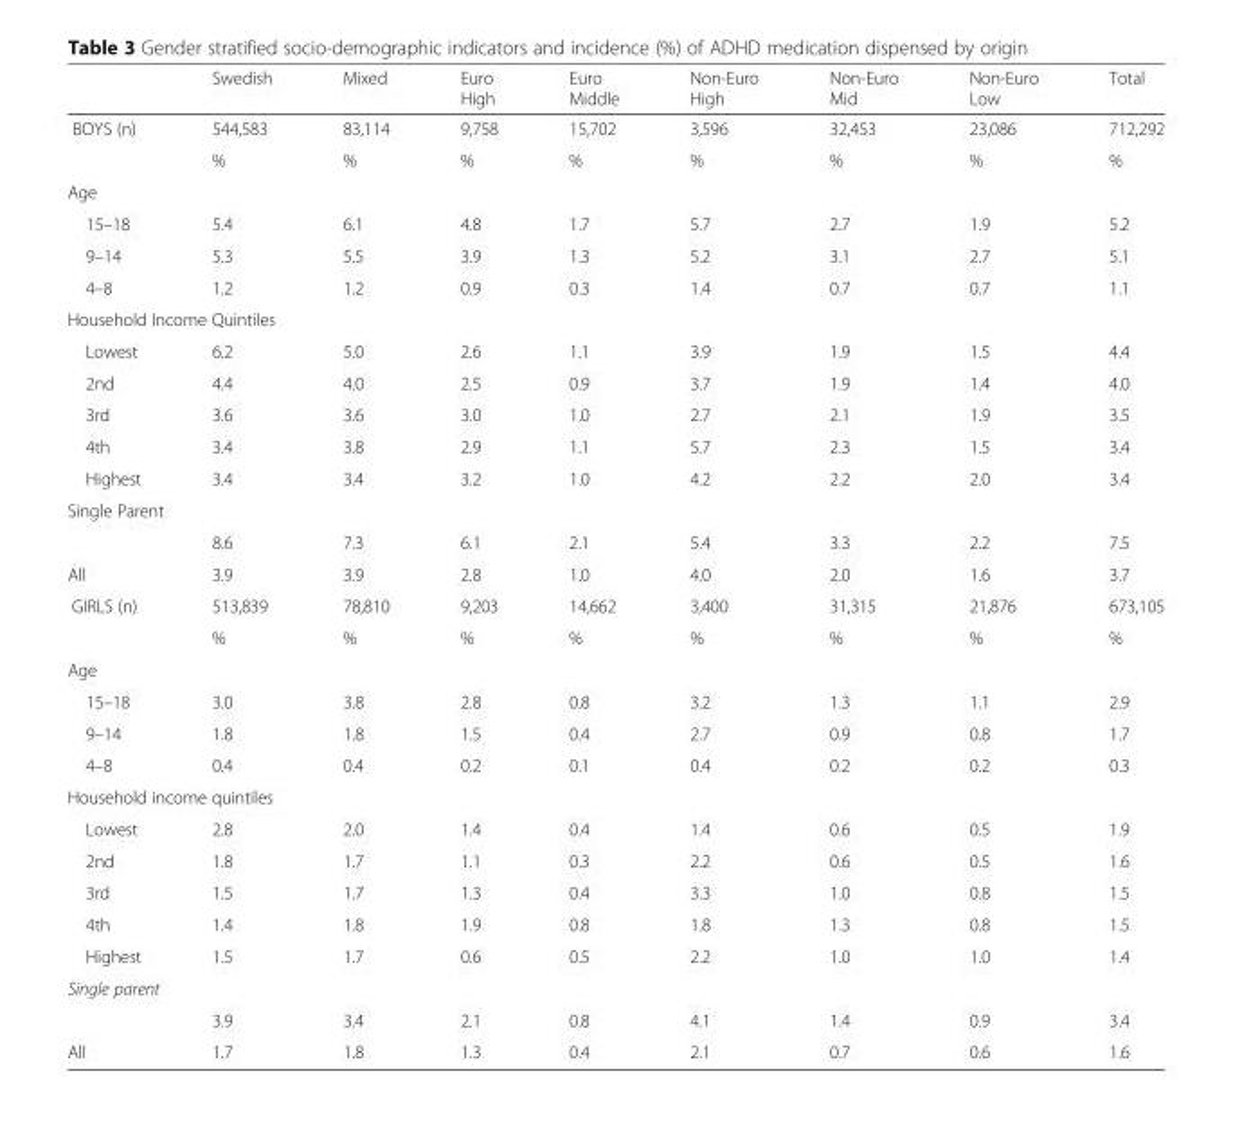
<table><thead><tr><td></td><td>Swedish</td><td>Mixed</td><td>Euro High</td><td>Euro Middle</td><td>Non-Euro High</td><td>Non-Euro Mid</td><td>Non-Euro Low</td><td>Total</td></tr></thead><tbody><tr><td rowspan="2">BOYS (n)</td><td>544,583</td><td>83,114</td><td>9,758</td><td>15,702</td><td>3,596</td><td>32,453</td><td>23,086</td><td>712,292</td></tr><tr><td>%</td><td>%</td><td>%</td><td>%</td><td>%</td><td>%</td><td>%</td><td>%</td></tr><tr><td colspan="9">Age</td></tr><tr><td>15–18</td><td>5.4</td><td>6.1</td><td>4.8</td><td>1.7</td><td>5.7</td><td>2.7</td><td>1.9</td><td>5.2</td></tr><tr><td>9–14</td><td>5.3</td><td>5.5</td><td>3.9</td><td>1.3</td><td>5.2</td><td>3.1</td><td>2.7</td><td>5.1</td></tr><tr><td>4–8</td><td>1.2</td><td>1.2</td><td>0.9</td><td>0.3</td><td>1.4</td><td>0.7</td><td>0.7</td><td>1.1</td></tr><tr><td colspan="9">Household Income Quintiles</td></tr><tr><td>Lowest</td><td>6.2</td><td>5.0</td><td>2.6</td><td>1.1</td><td>3.9</td><td>1.9</td><td>1.5</td><td>4.4</td></tr><tr><td>2nd</td><td>4.4</td><td>4.0</td><td>2.5</td><td>0.9</td><td>3.7</td><td>1.9</td><td>1.4</td><td>4.0</td></tr><tr><td>3rd</td><td>3.6</td><td>3.6</td><td>3.0</td><td>1.0</td><td>2.7</td><td>2.1</td><td>1.9</td><td>3.5</td></tr><tr><td>4th</td><td>3.4</td><td>3.8</td><td>2.9</td><td>1.1</td><td>5.7</td><td>2.3</td><td>1.5</td><td>3.4</td></tr><tr><td>Highest</td><td>3.4</td><td>3.4</td><td>3.2</td><td>1.0</td><td>4.2</td><td>2.2</td><td>2.0</td><td>3.4</td></tr><tr><td colspan="9">Single Parent</td></tr><tr><td></td><td>8.6</td><td>7.3</td><td>6.1</td><td>2.1</td><td>5.4</td><td>3.3</td><td>2.2</td><td>7.5</td></tr><tr><td>All</td><td>3.9</td><td>3.9</td><td>2.8</td><td>1.0</td><td>4.0</td><td>2.0</td><td>1.6</td><td>3.7</td></tr><tr><td rowspan="2">GIRLS (n)</td><td>513,839</td><td>78,810</td><td>9,203</td><td>14,662</td><td>3,400</td><td>31,315</td><td>21,876</td><td>673,105</td></tr><tr><td>%</td><td>%</td><td>%</td><td>%</td><td>%</td><td>%</td><td>%</td><td>%</td></tr><tr><td colspan="9">Age</td></tr><tr><td>15–18</td><td>3.0</td><td>3.8</td><td>2.8</td><td>0.8</td><td>3.2</td><td>1.3</td><td>1.1</td><td>2.9</td></tr><tr><td>9–14</td><td>1.8</td><td>1.8</td><td>1.5</td><td>0.4</td><td>2.7</td><td>0.9</td><td>0.8</td><td>1.7</td></tr><tr><td>4–8</td><td>0.4</td><td>0.4</td><td>0.2</td><td>0.1</td><td>0.4</td><td>0.2</td><td>0.2</td><td>0.3</td></tr><tr><td colspan="9">Household income quintiles</td></tr><tr><td>Lowest</td><td>2.8</td><td>2.0</td><td>1.4</td><td>0.4</td><td>1.4</td><td>0.6</td><td>0.5</td><td>1.9</td></tr><tr><td>2nd</td><td>1.8</td><td>1.7</td><td>1.1</td><td>0.3</td><td>2.2</td><td>0.6</td><td>0.5</td><td>1.6</td></tr><tr><td>3rd</td><td>1.5</td><td>1.7</td><td>1.3</td><td>0.4</td><td>3.3</td><td>1.0</td><td>0.8</td><td>1.5</td></tr><tr><td>4th</td><td>1.4</td><td>1.8</td><td>1.9</td><td>0.8</td><td>1.8</td><td>1.3</td><td>0.8</td><td>1.5</td></tr><tr><td>Highest</td><td>1.5</td><td>1.7</td><td>0.6</td><td>0.5</td><td>2.2</td><td>1.0</td><td>1.0</td><td>1.4</td></tr><tr><td colspan="9">Single parent</td></tr><tr><td></td><td>3.9</td><td>3.4</td><td>2.1</td><td>0.8</td><td>4.1</td><td>1.4</td><td>0.9</td><td>3.4</td></tr><tr><td>All</td><td>1.7</td><td>1.8</td><td>1.3</td><td>0.4</td><td>2.1</td><td>0.7</td><td>0.6</td><td>1.6</td></tr></tbody></table>